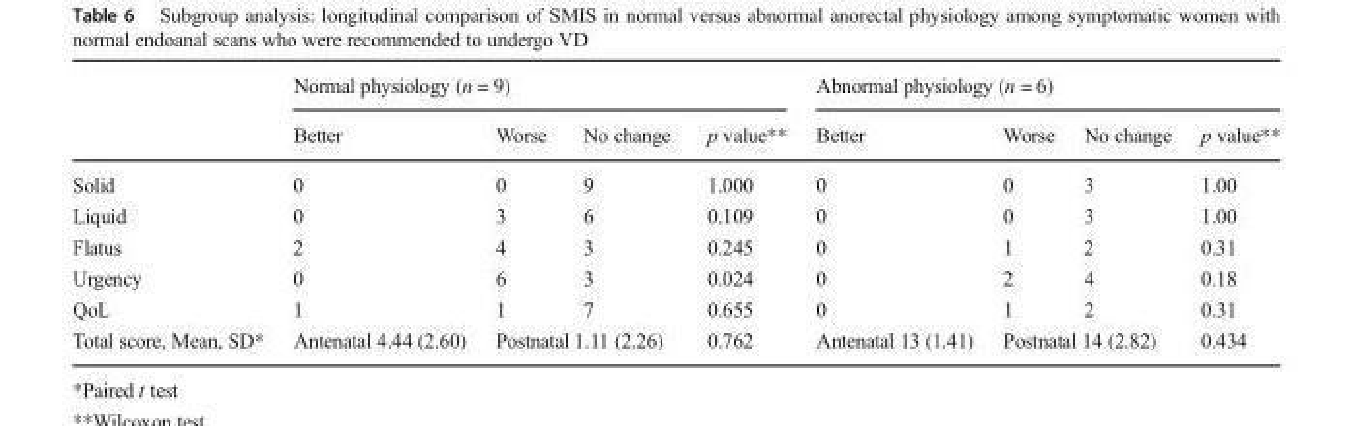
<table><thead><tr><td rowspan="2"></td><td colspan="4">Normal physiology (n = 9)</td><td colspan="4">Abnormal physiology (n = 6)</td></tr><tr><td>Better</td><td>Worse</td><td>No change</td><td>p value**</td><td>Better</td><td>Worse</td><td>No change</td><td>p value**</td></tr></thead><tbody><tr><td>Solid</td><td>0</td><td>0</td><td>9</td><td>1.000</td><td>0</td><td>0</td><td>3</td><td>1.00</td></tr><tr><td>Liquid</td><td>0</td><td>3</td><td>6</td><td>0.109</td><td>0</td><td>0</td><td>3</td><td>1.00</td></tr><tr><td>Flatus</td><td>2</td><td>4</td><td>3</td><td>0.245</td><td>0</td><td>1</td><td>2</td><td>0.31</td></tr><tr><td>Urgency</td><td>0</td><td>6</td><td>3</td><td>0.024</td><td>0</td><td>2</td><td>4</td><td>0.18</td></tr><tr><td>QoL</td><td>1</td><td>1</td><td>7</td><td>0.655</td><td>0</td><td>1</td><td>2</td><td>0.31</td></tr><tr><td>Total score, Mean, SD*</td><td>Antenatal 4.44 (2.60)</td><td colspan="2">Postnatal 1.11 (2.26)</td><td>0.762</td><td>Antenatal 13 (1.41)</td><td colspan="2">Postnatal 14 (2.82)</td><td>0.434</td></tr></tbody></table>